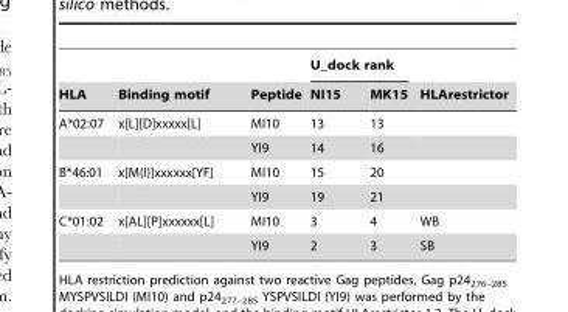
<table><thead><tr><td rowspan="2">HLA</td><td rowspan="2">Binding motif</td><td rowspan="2">Peptide</td><td colspan="2">U_dock rank</td><td rowspan="2">HLArestrictor</td></tr><tr><td>NI15</td><td>MK15</td></tr></thead><tbody><tr><td rowspan="2">A*02:07</td><td>x[L][D]xxxxx[L]</td><td>MI10</td><td>13</td><td>13</td><td></td></tr><tr><td></td><td>YI9</td><td>14</td><td>16</td><td></td></tr><tr><td rowspan="2">B*46:01</td><td>x[M(I)]xxxxxx[YF]</td><td>MI10</td><td>15</td><td>20</td><td></td></tr><tr><td></td><td>YI9</td><td>19</td><td>21</td><td></td></tr><tr><td rowspan="2">C*01:02</td><td>x[AL][P]xxxxxx[L]</td><td>MI10</td><td>3</td><td>4</td><td>WB</td></tr><tr><td></td><td>YI9</td><td>2</td><td>3</td><td>SB</td></tr></tbody></table>